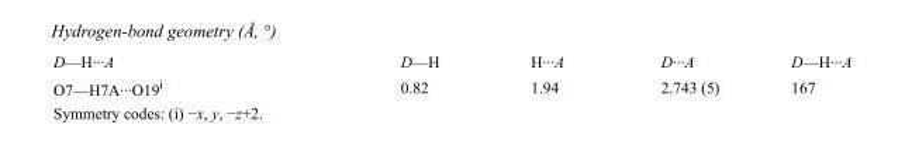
<table><tbody><tr><td>D—H···A</td><td>D—H</td><td>H···A</td><td>D···A</td><td>D—H···A</td></tr><tr><td>O7—H7A···O19<sup>i</sup></td><td>0.82</td><td>1.94</td><td>2.743 (5)</td><td>167</td></tr></tbody></table>